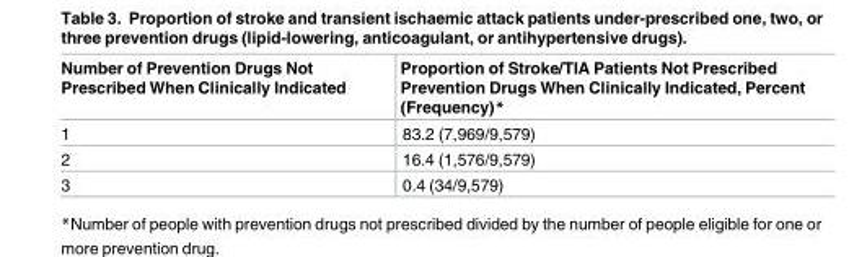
<table><thead><tr><td>Number of Prevention Drugs Not Prescribed When Clinically Indicated</td><td>Proportion of Stroke/TIA Patients Not Prescribed Prevention Drugs When Clinically Indicated, Percent (Frequency)*</td></tr></thead><tbody><tr><td>1</td><td>83.2 (7,969/9,579)</td></tr><tr><td>2</td><td>16.4 (1,576/9,579)</td></tr><tr><td>3</td><td>0.4 (34/9,579)</td></tr></tbody></table>